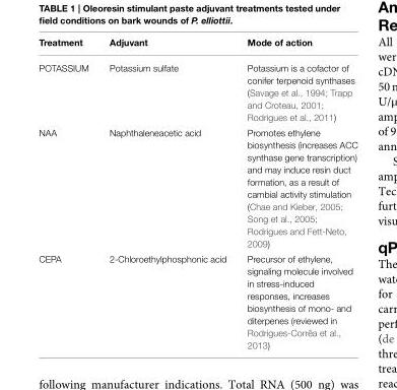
<table><thead><tr><td>Treatment</td><td>Adjuvant</td><td>Mode of action</td></tr></thead><tbody><tr><td>POTASSIUM</td><td>Potassium sulfate</td><td>Potassium is a cofactor of conifer terpenoid synthases (Savage et al., 1994; Trapp and Croteau, 2001; Rodrigues et al., 2011)</td></tr><tr><td>NAA</td><td>Naphthaleneacetic acid</td><td>Promotes ethylene biosynthesis (increases ACC synthase gene transcription) and may induce resin duct formation, as a result of cambial activity stimulation (Chae and Kieber, 2005; Song et al., 2005; Rodrigues and Fett-Neto, 2009)</td></tr><tr><td>CEPA</td><td>2-Chloroethylphosphonic acid</td><td>Precursor of ethylene, signaling molecule involved in stress-induced responses, increases biosynthesis of mono- and diterpenes (reviewed in Rodrigues-Corrêa et al., 2013)</td></tr></tbody></table>